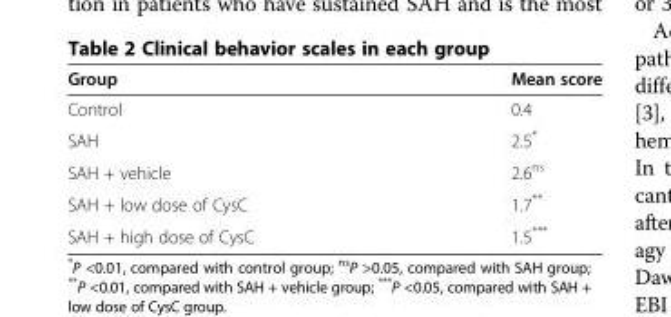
<table><thead><tr><td>Group</td><td>Mean score</td></tr></thead><tbody><tr><td>Control</td><td>0.4</td></tr><tr><td>SAH</td><td>2.5*</td></tr><tr><td>SAH + vehicle</td><td>2.6<sup>ns</sup></td></tr><tr><td>SAH + low dose of CysC</td><td>1.7**</td></tr><tr><td>SAH + high dose of CysC</td><td>1.5***</td></tr></tbody></table>